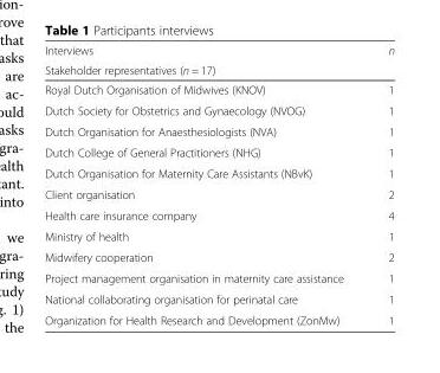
<table><thead><tr><td rowspan="2">Interviews Stakeholder representatives (n = 17)</td><td rowspan="2">n</td></tr><tr></tr></thead><tbody><tr><td>Royal Dutch Organisation of Midwives (KNOV)</td><td>1</td></tr><tr><td>Dutch Society for Obstetrics and Gynaecology (NVOG)</td><td>1</td></tr><tr><td>Dutch Organisation for Anaesthesiologists (NVA)</td><td>1</td></tr><tr><td>Dutch College of General Practitioners (NHG)</td><td>1</td></tr><tr><td>Dutch Organisation for Maternity Care Assistants (NBvK)</td><td>1</td></tr><tr><td>Client organisation</td><td>2</td></tr><tr><td>Health care insurance company</td><td>4</td></tr><tr><td>Ministry of health</td><td>1</td></tr><tr><td>Midwifery cooperation</td><td>2</td></tr><tr><td>Project management organisation in maternity care assistance</td><td>1</td></tr><tr><td>National collaborating organisation for perinatal care</td><td>1</td></tr><tr><td>Organization for Health Research and Development (ZonMw)</td><td>1</td></tr></tbody></table>